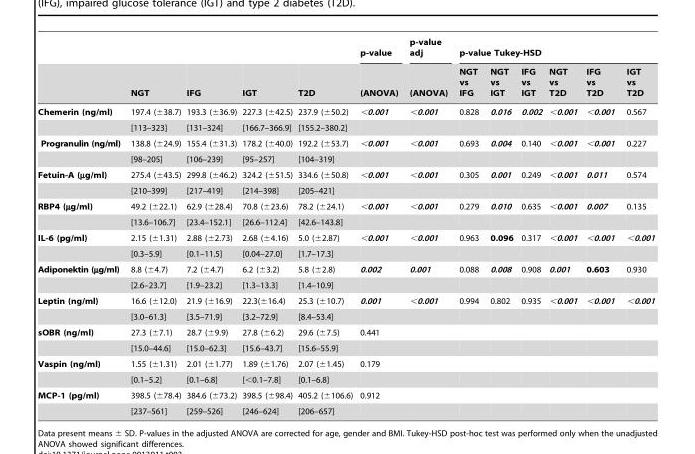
<table><thead><tr><td rowspan="2"></td><td rowspan="2">NGT</td><td rowspan="2">IFG</td><td rowspan="2">IGT</td><td rowspan="2">T2D</td><td rowspan="2">p-value (ANOVA)</td><td rowspan="2">p-value adj (ANOVA)</td><td colspan="6">p-value Tukey-HSD</td></tr><tr><td>NGT vs IFG</td><td>NGT vs IGT</td><td>IFG vs IGT</td><td>NGT vs T2D</td><td>IFG vs T2D</td><td>IGT vs T2D</td></tr></thead><tbody><tr><td rowspan="2">Chemerin (ng/ml)</td><td>197.4 (±38.7)</td><td>193.3 (±36.9)</td><td>227.3 (±42.5)</td><td>237.9 (±50.2)</td><td>&lt;0.001</td><td>&lt;0.001</td><td>0.828</td><td>0.016</td><td>0.002</td><td>&lt;0.001</td><td>&lt;0.001</td><td>0.567</td></tr><tr><td>[113–323]</td><td>[131–324]</td><td>[166.7–366.9]</td><td>[155.2–380.2]</td><td></td><td></td><td></td><td></td><td></td><td></td><td></td><td></td></tr><tr><td rowspan="2">Progranulin (ng/ml)</td><td>138.8 (±24.9)</td><td>155.4 (±31.3)</td><td>178.2 (±40.0)</td><td>192.2 (±53.7)</td><td>&lt;0.001</td><td>&lt;0.001</td><td>0.693</td><td>0.004</td><td>0.140</td><td>&lt;0.001</td><td>&lt;0.001</td><td>0.227</td></tr><tr><td>[98–205]</td><td>[106–239]</td><td>[95–257]</td><td>[104–319]</td><td></td><td></td><td></td><td></td><td></td><td></td><td></td><td></td></tr><tr><td rowspan="2">Fetuin-A (µg/ml)</td><td>275.4 (±43.5)</td><td>299.8 (±46.2)</td><td>324.2 (±51.5)</td><td>334.6 (±50.8)</td><td>&lt;0.001</td><td>&lt;0.001</td><td>0.305</td><td>0.001</td><td>0.249</td><td>&lt;0.001</td><td>0.011</td><td>0.574</td></tr><tr><td>[210–399]</td><td>[217–419]</td><td>[214–398]</td><td>[205–421]</td><td></td><td></td><td></td><td></td><td></td><td></td><td></td><td></td></tr><tr><td rowspan="2">RBP4 (µg/ml)</td><td>49.2 (±22.1)</td><td>62.9 (±28.4)</td><td>70.8 (±23.6)</td><td>78.2 (±24.1)</td><td>&lt;0.001</td><td>&lt;0.001</td><td>0.279</td><td>0.010</td><td>0.635</td><td>&lt;0.001</td><td>0.007</td><td>0.135</td></tr><tr><td>[13.6–106.7]</td><td>[23.4–152.1]</td><td>[26.6–112.4]</td><td>[42.6–143.8]</td><td></td><td></td><td></td><td></td><td></td><td></td><td></td><td></td></tr><tr><td rowspan="2">IL-6 (pg/ml)</td><td>2.15 (±1.31)</td><td>2.88 (±2.73)</td><td>2.68 (±4.16)</td><td>5.0 (±2.87)</td><td>&lt;0.001</td><td>&lt;0.001</td><td>0.963</td><td>0.096</td><td>0.317</td><td>&lt;0.001</td><td>&lt;0.001</td><td>&lt;0.001</td></tr><tr><td>[0.3–5.9]</td><td>[0.1–11.5]</td><td>[0.04–27.0]</td><td>[1.7–17.3]</td><td></td><td></td><td></td><td></td><td></td><td></td><td></td><td></td></tr><tr><td rowspan="2">Adiponektin (µg/ml)</td><td>8.8 (±4.7)</td><td>7.2 (±4.7)</td><td>6.2 (±3.2)</td><td>5.8 (±2.8)</td><td>0.002</td><td>0.001</td><td>0.088</td><td>0.008</td><td>0.908</td><td>0.001</td><td>0.603</td><td>0.930</td></tr><tr><td>[2.6–23.7]</td><td>[1.9–23.2]</td><td>[1.3–13.3]</td><td>[1.4–10.9]</td><td></td><td></td><td></td><td></td><td></td><td></td><td></td><td></td></tr><tr><td rowspan="2">Leptin (ng/ml)</td><td>16.6 (±12.0)</td><td>21.9 (±16.9)</td><td>22.3(±16.4)</td><td>25.3 (±10.7)</td><td>0.001</td><td>&lt;0.001</td><td>0.994</td><td>0.802</td><td>0.935</td><td>&lt;0.001</td><td>&lt;0.001</td><td>&lt;0.001</td></tr><tr><td>[3.0–61.3]</td><td>[3.5–71.9]</td><td>[3.2–72.9]</td><td>[8.4–53.4]</td><td></td><td></td><td></td><td></td><td></td><td></td><td></td><td></td></tr><tr><td rowspan="2">sOBR (ng/ml)</td><td>27.3 (±7.1)</td><td>28.7 (±9.9)</td><td>27.8 (±6.2)</td><td>29.6 (±7.5)</td><td>0.441</td><td></td><td></td><td></td><td></td><td></td><td></td><td></td></tr><tr><td>[15.0–44.6]</td><td>[15.0–62.3]</td><td>[15.6–43.7]</td><td>[15.6–55.9]</td><td></td><td></td><td></td><td></td><td></td><td></td><td></td><td></td></tr><tr><td rowspan="2">Vaspin (ng/ml)</td><td>1.55 (±1.31)</td><td>2.01 (±1.77)</td><td>1.89 (±1.76)</td><td>2.07 (±1.45)</td><td>0.179</td><td></td><td></td><td></td><td></td><td></td><td></td><td></td></tr><tr><td>[0.1–5.2]</td><td>[0.1–6.8]</td><td>[&lt;0.1–7.8]</td><td>[0.1–6.8]</td><td></td><td></td><td></td><td></td><td></td><td></td><td></td><td></td></tr><tr><td rowspan="2">MCP-1 (pg/ml)</td><td>398.5 (±78.4)</td><td>384.6 (±73.2)</td><td>398.5 (±98.4)</td><td>405.2 (±106.6)</td><td>0.912</td><td></td><td></td><td></td><td></td><td></td><td></td><td></td></tr><tr><td>[237–561]</td><td>[259–526]</td><td>[246–624]</td><td>[206–657]</td><td></td><td></td><td></td><td></td><td></td><td></td><td></td><td></td></tr></tbody></table>